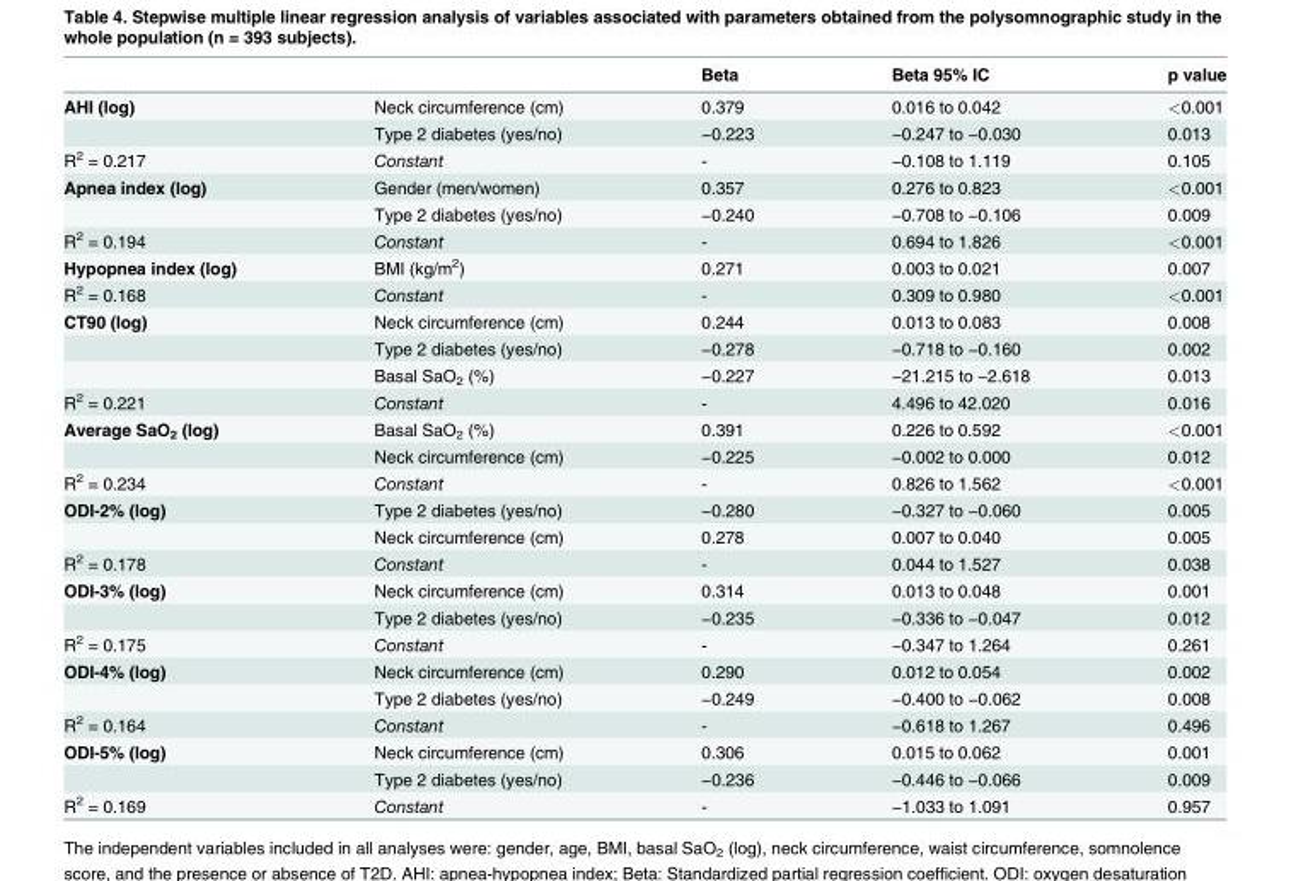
<table><thead><tr><td></td><td></td><td>Beta</td><td>Beta 95% IC</td><td>p value</td></tr></thead><tbody><tr><td rowspan="2">AHI (log)</td><td>Neck circumference (cm)</td><td>0.379</td><td>0.016 to 0.042</td><td>&lt;0.001</td></tr><tr><td>Type 2 diabetes (yes/no)</td><td>−0.223</td><td>−0.247 to −0.030</td><td>0.013</td></tr><tr><td>R<sup>2</sup> = 0.217</td><td>Constant</td><td>-</td><td>−0.108 to 1.119</td><td>0.105</td></tr><tr><td rowspan="2">Apnea index (log)</td><td>Gender (men/women)</td><td>0.357</td><td>0.276 to 0.823</td><td>&lt;0.001</td></tr><tr><td>Type 2 diabetes (yes/no)</td><td>−0.240</td><td>−0.708 to −0.106</td><td>0.009</td></tr><tr><td>R<sup>2</sup> = 0.194</td><td>Constant</td><td>-</td><td>0.694 to 1.826</td><td>&lt;0.001</td></tr><tr><td>Hypopnea index (log)</td><td>BMI (kg/m<sup>2</sup>)</td><td>0.271</td><td>0.003 to 0.021</td><td>0.007</td></tr><tr><td>R<sup>2</sup> = 0.168</td><td>Constant</td><td>-</td><td>0.309 to 0.980</td><td>&lt;0.001</td></tr><tr><td rowspan="3">CT90 (log)</td><td>Neck circumference (cm)</td><td>0.244</td><td>0.013 to 0.083</td><td>0.008</td></tr><tr><td>Type 2 diabetes (yes/no)</td><td>−0.278</td><td>−0.718 to −0.160</td><td>0.002</td></tr><tr><td>Basal SaO<sub>2</sub> (%)</td><td>−0.227</td><td>−21.215 to −2.618</td><td>0.013</td></tr><tr><td>R<sup>2</sup> = 0.221</td><td>Constant</td><td>-</td><td>4.496 to 42.020</td><td>0.016</td></tr><tr><td rowspan="2">Average SaO<sub>2</sub> (log)</td><td>Basal SaO<sub>2</sub> (%)</td><td>0.391</td><td>0.226 to 0.592</td><td>&lt;0.001</td></tr><tr><td>Neck circumference (cm)</td><td>−0.225</td><td>−0.002 to 0.000</td><td>0.012</td></tr><tr><td>R<sup>2</sup> = 0.234</td><td>Constant</td><td>-</td><td>0.826 to 1.562</td><td>&lt;0.001</td></tr><tr><td rowspan="2">ODI-2% (log)</td><td>Type 2 diabetes (yes/no)</td><td>−0.280</td><td>−0.327 to −0.060</td><td>0.005</td></tr><tr><td>Neck circumference (cm)</td><td>0.278</td><td>0.007 to 0.040</td><td>0.005</td></tr><tr><td>R<sup>2</sup> = 0.178</td><td>Constant</td><td>-</td><td>0.044 to 1.527</td><td>0.038</td></tr><tr><td rowspan="2">ODI-3% (log)</td><td>Neck circumference (cm)</td><td>0.314</td><td>0.013 to 0.048</td><td>0.001</td></tr><tr><td>Type 2 diabetes (yes/no)</td><td>−0.235</td><td>−0.336 to −0.047</td><td>0.012</td></tr><tr><td>R<sup>2</sup> = 0.175</td><td>Constant</td><td>-</td><td>−0.347 to 1.264</td><td>0.261</td></tr><tr><td rowspan="2">ODI-4% (log)</td><td>Neck circumference (cm)</td><td>0.290</td><td>0.012 to 0.054</td><td>0.002</td></tr><tr><td>Type 2 diabetes (yes/no)</td><td>−0.249</td><td>−0.400 to −0.062</td><td>0.008</td></tr><tr><td>R<sup>2</sup> = 0.164</td><td>Constant</td><td>-</td><td>−0.618 to 1.267</td><td>0.496</td></tr><tr><td rowspan="2">ODI-5% (log)</td><td>Neck circumference (cm)</td><td>0.306</td><td>0.015 to 0.062</td><td>0.001</td></tr><tr><td>Type 2 diabetes (yes/no)</td><td>−0.236</td><td>−0.446 to −0.066</td><td>0.009</td></tr><tr><td>R<sup>2</sup> = 0.169</td><td>Constant</td><td>-</td><td>−1.033 to 1.091</td><td>0.957</td></tr></tbody></table>